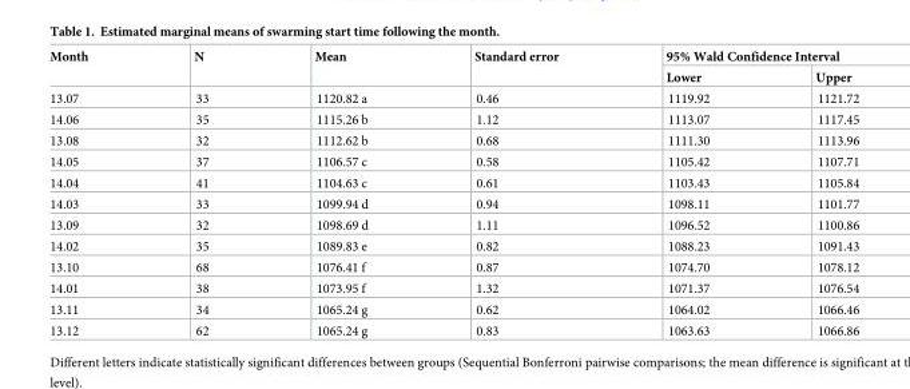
<table><thead><tr><td rowspan="2">Month</td><td rowspan="2">N</td><td rowspan="2">Mean</td><td rowspan="2">Standard error</td><td colspan="2">95% Wald Confidence Interval</td></tr><tr><td>Lower</td><td>Upper</td></tr></thead><tbody><tr><td>13.07</td><td>33</td><td>1120.82 a</td><td>0.46</td><td>1119.92</td><td>1121.72</td></tr><tr><td>14.06</td><td>35</td><td>1115.26 b</td><td>1.12</td><td>1113.07</td><td>1117.45</td></tr><tr><td>13.08</td><td>32</td><td>1112.62 b</td><td>0.68</td><td>1111.30</td><td>1113.96</td></tr><tr><td>14.05</td><td>37</td><td>1106.57 c</td><td>0.58</td><td>1105.42</td><td>1107.71</td></tr><tr><td>14.04</td><td>41</td><td>1104.63 c</td><td>0.61</td><td>1103.43</td><td>1105.84</td></tr><tr><td>14.03</td><td>33</td><td>1099.94 d</td><td>0.94</td><td>1098.11</td><td>1101.77</td></tr><tr><td>13.09</td><td>32</td><td>1098.69 d</td><td>1.11</td><td>1096.52</td><td>1100.86</td></tr><tr><td>14.02</td><td>35</td><td>1089.83 e</td><td>0.82</td><td>1088.23</td><td>1091.43</td></tr><tr><td>13.10</td><td>68</td><td>1076.41 f</td><td>0.87</td><td>1074.70</td><td>1078.12</td></tr><tr><td>14.01</td><td>38</td><td>1073.95 f</td><td>1.32</td><td>1071.37</td><td>1076.54</td></tr><tr><td>13.11</td><td>34</td><td>1065.24 g</td><td>0.62</td><td>1064.02</td><td>1066.46</td></tr><tr><td>13.12</td><td>62</td><td>1065.24 g</td><td>0.83</td><td>1063.63</td><td>1066.86</td></tr></tbody></table>